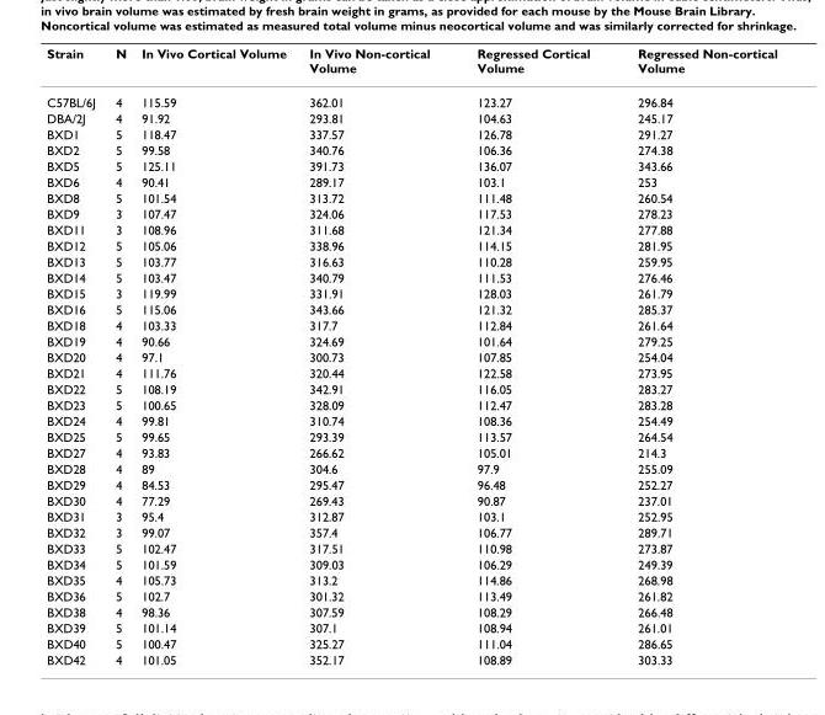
<table><thead><tr><td>Strain</td><td>N</td><td>In Vivo Cortical Volume</td><td>In Vivo Non-cortical Volume</td><td>Regressed Cortical Volume</td><td>Regressed Non-cortical Volume</td></tr></thead><tbody><tr><td>C57BL/6J</td><td>4</td><td>115.59</td><td>362.01</td><td>123.27</td><td>296.84</td></tr><tr><td>DBA/2J</td><td>4</td><td>91.92</td><td>293.81</td><td>104.63</td><td>245.17</td></tr><tr><td>BXD1</td><td>5</td><td>118.47</td><td>337.57</td><td>126.78</td><td>291.27</td></tr><tr><td>BXD2</td><td>5</td><td>99.58</td><td>340.76</td><td>106.36</td><td>274.38</td></tr><tr><td>BXD5</td><td>5</td><td>125.11</td><td>391.73</td><td>136.07</td><td>343.66</td></tr><tr><td>BXD6</td><td>4</td><td>90.41</td><td>289.17</td><td>103.1</td><td>253</td></tr><tr><td>BXD8</td><td>5</td><td>101.54</td><td>313.72</td><td>111.48</td><td>260.54</td></tr><tr><td>BXD9</td><td>3</td><td>107.47</td><td>324.06</td><td>117.53</td><td>278.23</td></tr><tr><td>BXD11</td><td>3</td><td>108.96</td><td>311.68</td><td>121.34</td><td>277.88</td></tr><tr><td>BXD12</td><td>5</td><td>105.06</td><td>338.96</td><td>114.15</td><td>281.95</td></tr><tr><td>BXD13</td><td>5</td><td>103.77</td><td>316.63</td><td>110.28</td><td>259.95</td></tr><tr><td>BXD14</td><td>5</td><td>103.47</td><td>340.79</td><td>111.53</td><td>276.46</td></tr><tr><td>BXD15</td><td>3</td><td>119.99</td><td>331.91</td><td>128.03</td><td>261.79</td></tr><tr><td>BXD16</td><td>5</td><td>115.06</td><td>343.66</td><td>121.32</td><td>285.37</td></tr><tr><td>BXD18</td><td>4</td><td>103.33</td><td>317.7</td><td>112.84</td><td>261.64</td></tr><tr><td>BXD19</td><td>4</td><td>90.66</td><td>324.69</td><td>101.64</td><td>279.25</td></tr><tr><td>BXD20</td><td>4</td><td>97.1</td><td>300.73</td><td>107.85</td><td>254.04</td></tr><tr><td>BXD21</td><td>4</td><td>111.76</td><td>320.44</td><td>122.58</td><td>273.95</td></tr><tr><td>BXD22</td><td>5</td><td>108.19</td><td>342.91</td><td>116.05</td><td>283.27</td></tr><tr><td>BXD23</td><td>5</td><td>100.65</td><td>328.09</td><td>112.47</td><td>283.28</td></tr><tr><td>BXD24</td><td>4</td><td>99.81</td><td>310.74</td><td>108.36</td><td>254.49</td></tr><tr><td>BXD25</td><td>5</td><td>99.65</td><td>293.39</td><td>113.57</td><td>264.54</td></tr><tr><td>BXD27</td><td>4</td><td>93.83</td><td>266.62</td><td>105.01</td><td>214.3</td></tr><tr><td>BXD28</td><td>4</td><td>89</td><td>304.6</td><td>97.9</td><td>255.09</td></tr><tr><td>BXD29</td><td>4</td><td>84.53</td><td>295.47</td><td>96.48</td><td>252.27</td></tr><tr><td>BXD30</td><td>4</td><td>77.29</td><td>269.43</td><td>90.87</td><td>237.01</td></tr><tr><td>BXD31</td><td>3</td><td>95.4</td><td>312.87</td><td>103.1</td><td>252.95</td></tr><tr><td>BXD32</td><td>3</td><td>99.07</td><td>357.4</td><td>106.77</td><td>289.71</td></tr><tr><td>BXD33</td><td>5</td><td>102.47</td><td>317.51</td><td>110.98</td><td>273.87</td></tr><tr><td>BXD34</td><td>5</td><td>101.59</td><td>309.03</td><td>106.29</td><td>249.39</td></tr><tr><td>BXD35</td><td>4</td><td>105.73</td><td>313.2</td><td>114.86</td><td>268.98</td></tr><tr><td>BXD36</td><td>5</td><td>102.7</td><td>301.32</td><td>113.49</td><td>261.82</td></tr><tr><td>BXD38</td><td>4</td><td>98.36</td><td>307.59</td><td>108.29</td><td>266.48</td></tr><tr><td>BXD39</td><td>5</td><td>101.14</td><td>307.1</td><td>108.94</td><td>261.01</td></tr><tr><td>BXD40</td><td>5</td><td>100.47</td><td>325.27</td><td>111.04</td><td>286.65</td></tr><tr><td>BXD42</td><td>4</td><td>101.05</td><td>352.17</td><td>108.89</td><td>303.33</td></tr></tbody></table>